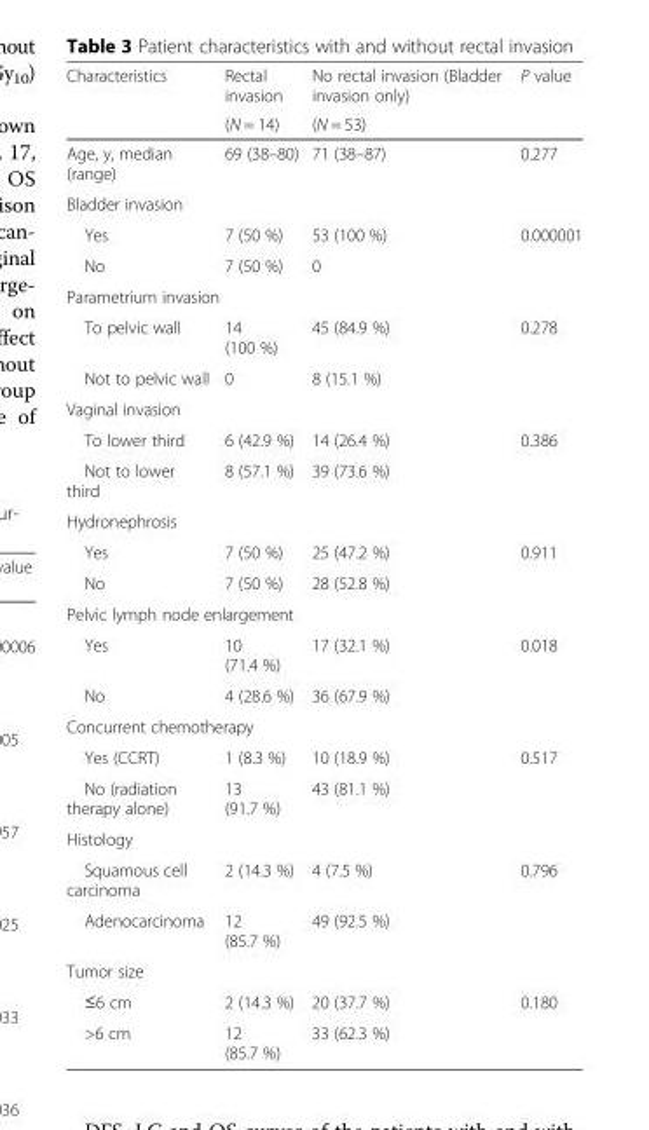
<table><thead><tr><td rowspan="2">Characteristics</td><td rowspan="2">Rectal invasion (N = 14)</td><td rowspan="2">No rectal invasion (Bladder invasion only) (N = 53)</td><td rowspan="2">P value</td></tr><tr></tr></thead><tbody><tr><td>Age, y, median (range)</td><td>69 (38–80)</td><td>71 (38–87)</td><td>0.277</td></tr><tr><td colspan="4">Bladder invasion</td></tr><tr><td>Yes</td><td>7 (50 %)</td><td>53 (100 %)</td><td>0.000001</td></tr><tr><td>No</td><td>7 (50 %)</td><td>0</td><td></td></tr><tr><td colspan="4">Parametrium invasion</td></tr><tr><td>To pelvic wall</td><td>14 (100 %)</td><td>45 (84.9 %)</td><td>0.278</td></tr><tr><td>Not to pelvic wall</td><td>0</td><td>8 (15.1 %)</td><td></td></tr><tr><td colspan="4">Vaginal invasion</td></tr><tr><td>To lower third</td><td>6 (42.9 %)</td><td>14 (26.4 %)</td><td>0.386</td></tr><tr><td>Not to lower third</td><td>8 (57.1 %)</td><td>39 (73.6 %)</td><td></td></tr><tr><td colspan="4">Hydronephrosis</td></tr><tr><td>Yes</td><td>7 (50 %)</td><td>25 (47.2 %)</td><td>0.911</td></tr><tr><td>No</td><td>7 (50 %)</td><td>28 (52.8 %)</td><td></td></tr><tr><td colspan="4">Pelvic lymph node enlargement</td></tr><tr><td>Yes</td><td>10 (71.4 %)</td><td>17 (32.1 %)</td><td>0.018</td></tr><tr><td>No</td><td>4 (28.6 %)</td><td>36 (67.9 %)</td><td></td></tr><tr><td colspan="4">Concurrent chemotherapy</td></tr><tr><td>Yes (CCRT)</td><td>1 (8.3 %)</td><td>10 (18.9 %)</td><td>0.517</td></tr><tr><td>No (radiation therapy alone)</td><td>13 (91.7 %)</td><td>43 (81.1 %)</td><td></td></tr><tr><td colspan="4">Histology</td></tr><tr><td>Squamous cell carcinoma</td><td>2 (14.3 %)</td><td>4 (7.5 %)</td><td>0.796</td></tr><tr><td>Adenocarcinoma</td><td>12 (85.7 %)</td><td>49 (92.5 %)</td><td></td></tr><tr><td colspan="4">Tumor size</td></tr><tr><td>≤6 cm</td><td>2 (14.3 %)</td><td>20 (37.7 %)</td><td>0.180</td></tr><tr><td>&gt;6 cm</td><td>12 (85.7 %)</td><td>33 (62.3 %)</td><td></td></tr></tbody></table>